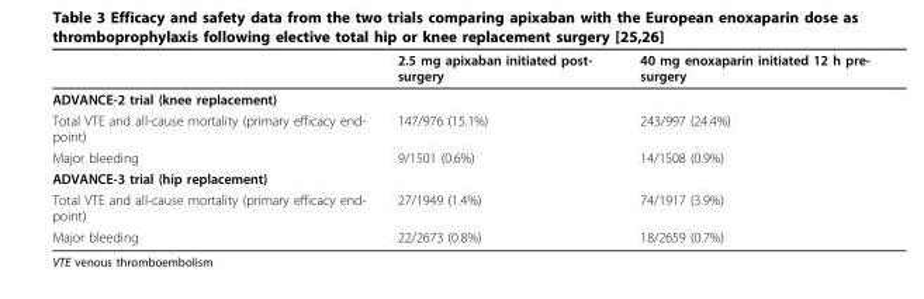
<table><thead><tr><td></td><td>2.5 mg apixaban initiated post- surgery</td><td>40 mg enoxaparin initiated 12 h pre- surgery</td></tr></thead><tbody><tr><td colspan="3">ADVANCE-2 trial (knee replacement)</td></tr><tr><td>Total VTE and all-cause mortality (primary efficacy end- point)</td><td>147/976 (15.1%)</td><td>243/997 (24.4%)</td></tr><tr><td>Major bleeding</td><td>9/1501 (0.6%)</td><td>14/1508 (0.9%)</td></tr><tr><td colspan="3">ADVANCE-3 trial (hip replacement)</td></tr><tr><td>Total VTE and all-cause mortality (primary efficacy end- point)</td><td>27/1949 (1.4%)</td><td>74/1917 (3.9%)</td></tr><tr><td>Major bleeding</td><td>22/2673 (0.8%)</td><td>18/2659 (0.7%)</td></tr></tbody></table>